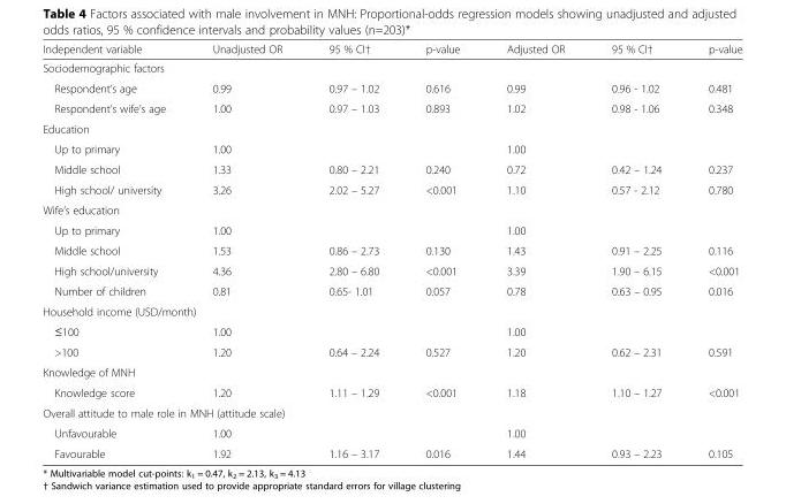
<table><thead><tr><td>Independent variable</td><td>Unadjusted OR</td><td>95 % CI†</td><td>p-value</td><td>Adjusted OR</td><td>95 % CI†</td><td>p-value</td></tr></thead><tbody><tr><td colspan="7">Sociodemographic factors</td></tr><tr><td>Respondent’s age</td><td>0.99</td><td>0.97 – 1.02</td><td>0.616</td><td>0.99</td><td>0.96 - 1.02</td><td>0.481</td></tr><tr><td>Respondent’s wife’s age</td><td>1.00</td><td>0.97 – 1.03</td><td>0.893</td><td>1.02</td><td>0.98 - 1.06</td><td>0.348</td></tr><tr><td colspan="7">Education</td></tr><tr><td>Up to primary</td><td>1.00</td><td></td><td></td><td>1.00</td><td></td><td></td></tr><tr><td>Middle school</td><td>1.33</td><td>0.80 – 2.21</td><td>0.240</td><td>0.72</td><td>0.42 – 1.24</td><td>0.237</td></tr><tr><td>High school/ university</td><td>3.26</td><td>2.02 – 5.27</td><td>&lt;0.001</td><td>1.10</td><td>0.57 - 2.12</td><td>0.780</td></tr><tr><td colspan="7">Wife’s education</td></tr><tr><td>Up to primary</td><td>1.00</td><td></td><td></td><td>1.00</td><td></td><td></td></tr><tr><td>Middle school</td><td>1.53</td><td>0.86 – 2.73</td><td>0.130</td><td>1.43</td><td>0.91 – 2.25</td><td>0.116</td></tr><tr><td>High school/university</td><td>4.36</td><td>2.80 – 6.80</td><td>&lt;0.001</td><td>3.39</td><td>1.90 – 6.15</td><td>&lt;0.001</td></tr><tr><td>Number of children</td><td>0.81</td><td>0.65- 1.01</td><td>0.057</td><td>0.78</td><td>0.63 – 0.95</td><td>0.016</td></tr><tr><td colspan="7">Household income (USD/month)</td></tr><tr><td>≤100</td><td>1.00</td><td></td><td></td><td>1.00</td><td></td><td></td></tr><tr><td>&gt;100</td><td>1.20</td><td>0.64 – 2.24</td><td>0.527</td><td>1.20</td><td>0.62 – 2.31</td><td>0.591</td></tr><tr><td colspan="7">Knowledge of MNH</td></tr><tr><td>Knowledge score</td><td>1.20</td><td>1.11 – 1.29</td><td>&lt;0.001</td><td>1.18</td><td>1.10 – 1.27</td><td>&lt;0.001</td></tr><tr><td colspan="7">Overall attitude to male role in MNH (attitude scale)</td></tr><tr><td>Unfavourable</td><td>1.00</td><td></td><td></td><td>1.00</td><td></td><td></td></tr><tr><td>Favourable</td><td>1.92</td><td>1.16 – 3.17</td><td>0.016</td><td>1.44</td><td>0.93 – 2.23</td><td>0.105</td></tr></tbody></table>